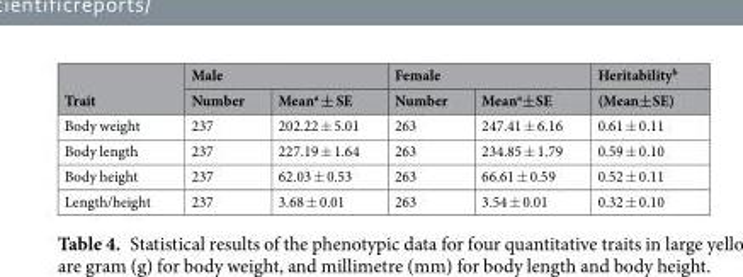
<table><thead><tr><td rowspan="2">Trait</td><td colspan="2">Male</td><td colspan="2">Female</td><td rowspan="2">Heritability<sup>b</sup> (Mean±SE)</td></tr><tr><td>Number</td><td>Mean<sup>a</sup> ± SE</td><td>Number</td><td>Mean<sup>a</sup>±SE</td></tr></thead><tbody><tr><td>Body weight</td><td>237</td><td>202.22 ± 5.01</td><td>263</td><td>247.41 ± 6.16</td><td>0.61 ± 0.11</td></tr><tr><td>Body length</td><td>237</td><td>227.19 ± 1.64</td><td>263</td><td>234.85 ± 1.79</td><td>0.59 ± 0.10</td></tr><tr><td>Body height</td><td>237</td><td>62.03 ± 0.53</td><td>263</td><td>66.61 ± 0.59</td><td>0.52 ± 0.11</td></tr><tr><td>Length/height</td><td>237</td><td>3.68 ± 0.01</td><td>263</td><td>3.54 ± 0.01</td><td>0.32 ± 0.10</td></tr></tbody></table>